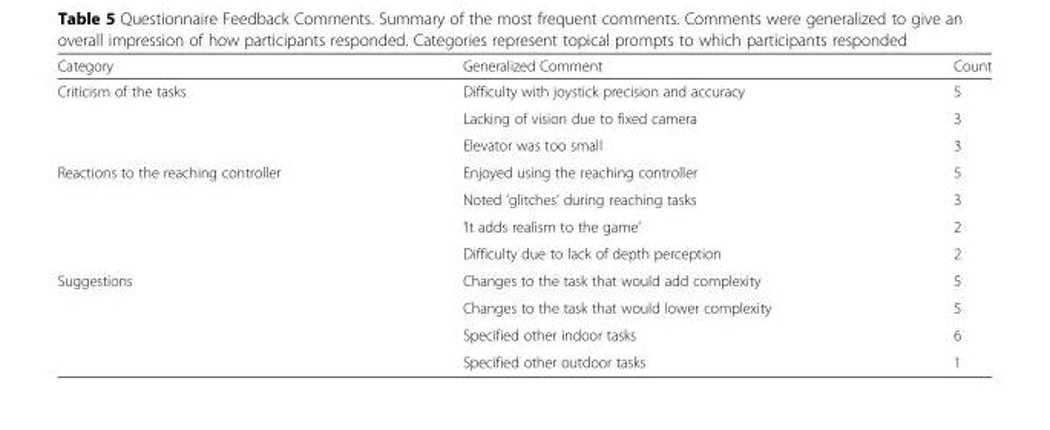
<table><thead><tr><td>Category</td><td>Generalized Comment</td><td>Count</td></tr></thead><tbody><tr><td rowspan="3">Criticism of the tasks</td><td>Difficulty with joystick precision and accuracy</td><td>5</td></tr><tr><td>Lacking of vision due to fixed camera</td><td>3</td></tr><tr><td>Elevator was too small</td><td>3</td></tr><tr><td rowspan="4">Reactions to the reaching controller</td><td>Enjoyed using the reaching controller</td><td>5</td></tr><tr><td>Noted ‘glitches’ during reaching tasks</td><td>3</td></tr><tr><td>‘It adds realism to the game’</td><td>2</td></tr><tr><td>Difficulty due to lack of depth perception</td><td>2</td></tr><tr><td rowspan="4">Suggestions</td><td>Changes to the task that would add complexity</td><td>5</td></tr><tr><td>Changes to the task that would lower complexity</td><td>5</td></tr><tr><td>Specified other indoor tasks</td><td>6</td></tr><tr><td>Specified other outdoor tasks</td><td>1</td></tr></tbody></table>